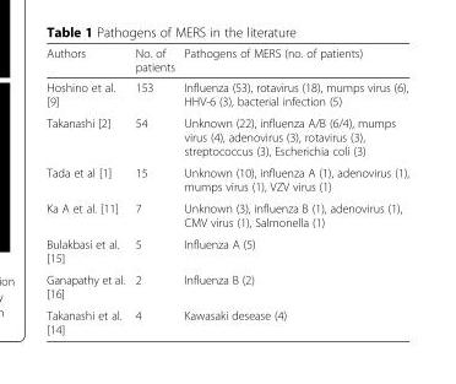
<table><thead><tr><td>Authors</td><td>No. of patients</td><td>Pathogens of MERS (no. of patients)</td></tr></thead><tbody><tr><td>Hoshino et al. [9]</td><td>153</td><td>Influenza (53), rotavirus (18), mumps virus (6), HHV-6 (3), bacterial infection (5)</td></tr><tr><td>Takanashi [2]</td><td>54</td><td>Unknown (22), influenza A/B (6/4), mumps virus (4), adenovirus (3), rotavirus (3), streptococcus (3), Escherichia coli (3)</td></tr><tr><td>Tada et al [1]</td><td>15</td><td>Unknown (10), influenza A (1), adenovirus (1), mumps virus (1), VZV virus (1)</td></tr><tr><td>Ka A et al. [11]</td><td>7</td><td>Unknown (3), influenza B (1), adenovirus (1), CMV virus (1), Salmonella (1)</td></tr><tr><td>Bulakbasi et al. [15]</td><td>5</td><td>Influenza A (5)</td></tr><tr><td>Ganapathy et al. [16]</td><td>2</td><td>Influenza B (2)</td></tr><tr><td>Takanashi et al. [14]</td><td>4</td><td>Kawasaki desease (4)</td></tr></tbody></table>